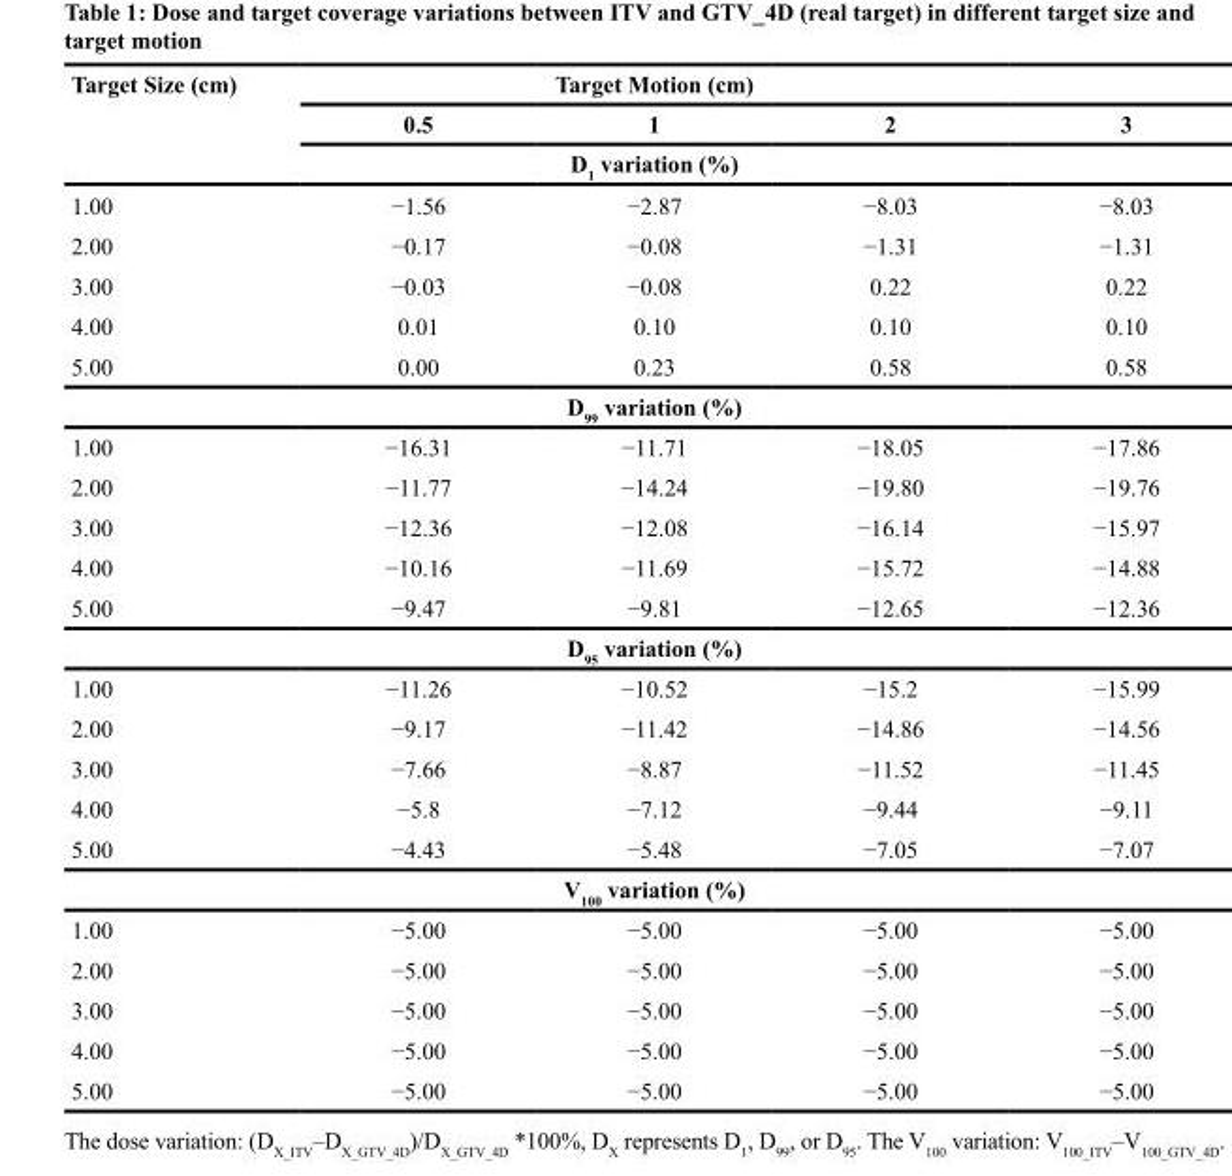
<table><thead><tr><td rowspan="2">Target Size (cm)</td><td colspan="4">Target Motion (cm)</td></tr><tr><td>0.5</td><td>1</td><td>2</td><td>3</td></tr></thead><tbody><tr><td colspan="5">D<sub>1</sub> variation (%)</td></tr><tr><td>1.00</td><td>−1.56</td><td>−2.87</td><td>−8.03</td><td>−8.03</td></tr><tr><td>2.00</td><td>−0.17</td><td>−0.08</td><td>−1.31</td><td>−1.31</td></tr><tr><td>3.00</td><td>−0.03</td><td>−0.08</td><td>0.22</td><td>0.22</td></tr><tr><td>4.00</td><td>0.01</td><td>0.10</td><td>0.10</td><td>0.10</td></tr><tr><td>5.00</td><td>0.00</td><td>0.23</td><td>0.58</td><td>0.58</td></tr><tr><td colspan="5">D<sub>99</sub> variation (%)</td></tr><tr><td>1.00</td><td>−16.31</td><td>−11.71</td><td>−18.05</td><td>−17.86</td></tr><tr><td>2.00</td><td>−11.77</td><td>−14.24</td><td>−19.80</td><td>−19.76</td></tr><tr><td>3.00</td><td>−12.36</td><td>−12.08</td><td>−16.14</td><td>−15.97</td></tr><tr><td>4.00</td><td>−10.16</td><td>−11.69</td><td>−15.72</td><td>−14.88</td></tr><tr><td>5.00</td><td>−9.47</td><td>−9.81</td><td>−12.65</td><td>−12.36</td></tr><tr><td colspan="5">D<sub>95</sub> variation (%)</td></tr><tr><td>1.00</td><td>−11.26</td><td>−10.52</td><td>−15.2</td><td>−15.99</td></tr><tr><td>2.00</td><td>−9.17</td><td>−11.42</td><td>−14.86</td><td>−14.56</td></tr><tr><td>3.00</td><td>−7.66</td><td>−8.87</td><td>−11.52</td><td>−11.45</td></tr><tr><td>4.00</td><td>−5.8</td><td>−7.12</td><td>−9.44</td><td>−9.11</td></tr><tr><td>5.00</td><td>−4.43</td><td>−5.48</td><td>−7.05</td><td>−7.07</td></tr><tr><td colspan="5">V<sub>100</sub> variation (%)</td></tr><tr><td>1.00</td><td>−5.00</td><td>−5.00</td><td>−5.00</td><td>−5.00</td></tr><tr><td>2.00</td><td>−5.00</td><td>−5.00</td><td>−5.00</td><td>−5.00</td></tr><tr><td>3.00</td><td>−5.00</td><td>−5.00</td><td>−5.00</td><td>−5.00</td></tr><tr><td>4.00</td><td>−5.00</td><td>−5.00</td><td>−5.00</td><td>−5.00</td></tr><tr><td>5.00</td><td>−5.00</td><td>−5.00</td><td>−5.00</td><td>−5.00</td></tr></tbody></table>